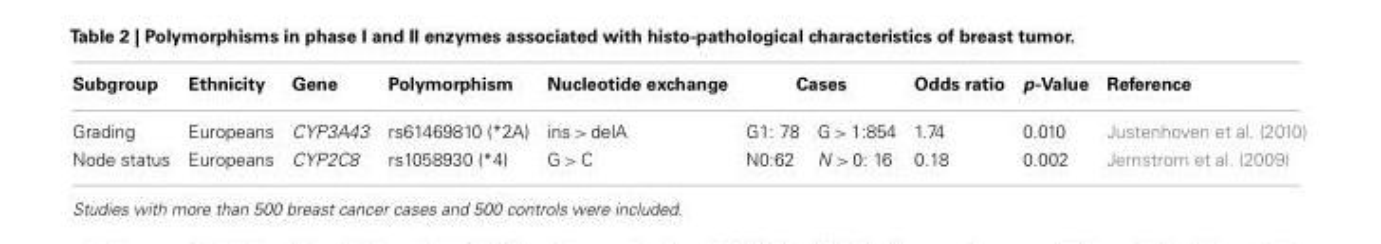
<table><thead><tr><td rowspan="2">Subgroup Grading</td><td rowspan="2">Ethnicity Europeans</td><td rowspan="2">Gene CYP3A43</td><td rowspan="2">Polymorphism rs61469810 (*2A)</td><td rowspan="2">Nucleotide exchange ins &gt; delA</td><td colspan="2">Cases</td><td rowspan="2">Odds ratio 1.74</td><td rowspan="2">p-Value 0.010</td><td rowspan="2">Reference Justenhoven et al. (2010)</td></tr><tr><td>G1: 78</td><td>G &gt; 1:854</td></tr></thead><tbody><tr><td>Node status</td><td>Europeans</td><td>CYP2C8</td><td>rs1058930 (*4)</td><td>G &gt; C</td><td>N0:62</td><td>N &gt; 0: 16</td><td>0.18</td><td>0.002</td><td>Jernstrom et al. (2009)</td></tr></tbody></table>